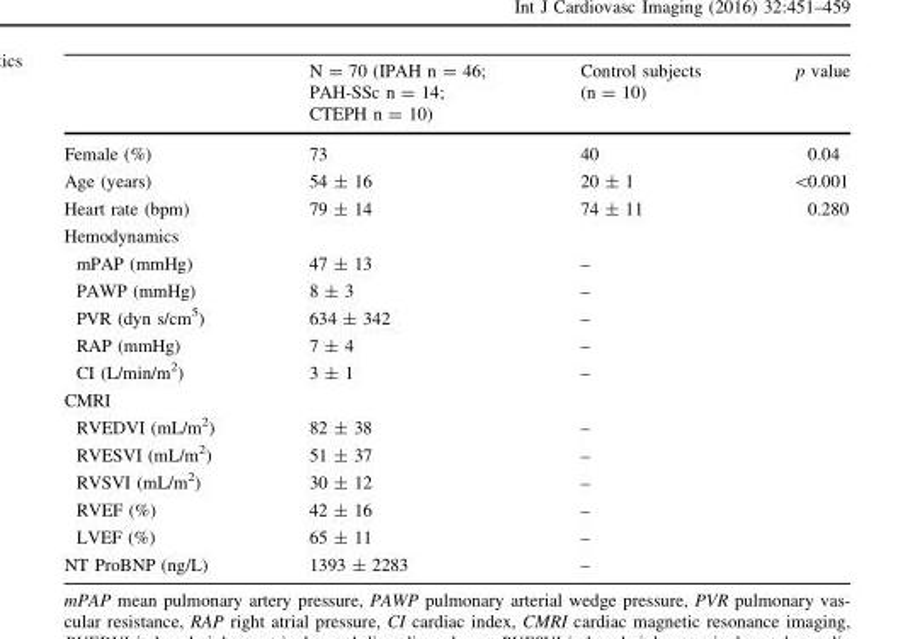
<table><thead><tr><td></td><td>N = 70 (IPAH n = 46; PAH-SSc n = 14; CTEPH n = 10)</td><td>Control subjects (n = 10)</td><td>p value</td></tr></thead><tbody><tr><td>Female (%)</td><td>73</td><td>40</td><td>0.04</td></tr><tr><td>Age (years)</td><td>54 ± 16</td><td>20 ± 1</td><td>&lt;0.001</td></tr><tr><td>Heart rate (bpm)</td><td>79 ± 14</td><td>74 ± 11</td><td>0.280</td></tr><tr><td colspan="4">Hemodynamics</td></tr><tr><td>mPAP (mmHg)</td><td>47 ± 13</td><td>–</td><td></td></tr><tr><td>PAWP (mmHg)</td><td>8 ± 3</td><td>–</td><td></td></tr><tr><td>PVR (dyn s/cm<sup>5</sup>)</td><td>634 ± 342</td><td>–</td><td></td></tr><tr><td>RAP (mmHg)</td><td>7 ± 4</td><td>–</td><td></td></tr><tr><td>CI (L/min/m<sup>2</sup>)</td><td>3 ± 1</td><td>–</td><td></td></tr><tr><td colspan="4">CMRI</td></tr><tr><td>RVEDVI (mL/m<sup>2</sup>)</td><td>82 ± 38</td><td>–</td><td></td></tr><tr><td>RVESVI (mL/m<sup>2</sup>)</td><td>51 ± 37</td><td>–</td><td></td></tr><tr><td>RVSVI (mL/m<sup>2</sup>)</td><td>30 ± 12</td><td>–</td><td></td></tr><tr><td>RVEF (%)</td><td>42 ± 16</td><td>–</td><td></td></tr><tr><td>LVEF (%)</td><td>65 ± 11</td><td>–</td><td></td></tr><tr><td>NT ProBNP (ng/L)</td><td>1393 ± 2283</td><td>–</td><td></td></tr></tbody></table>